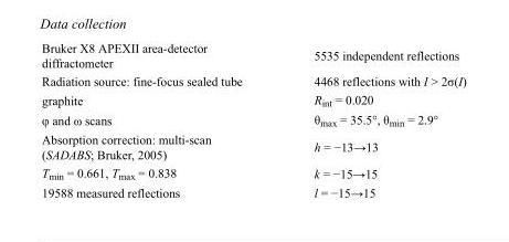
<table><tbody><tr><td>Bruker X8 APEXII area-detector diffractometer</td><td>5535 independent reflections</td></tr><tr><td>Radiation source: fine-focus sealed tube</td><td>4468 reflections with I &gt; 2σ(I)</td></tr><tr><td>graphite</td><td>R<sub>int</sub> = 0.020</td></tr><tr><td>φ and ω scans</td><td>θ<sub>max</sub> = 35.5°, θ<sub>min</sub> = 2.9°</td></tr><tr><td>Absorption correction: multi-scan (SADABS; Bruker, 2005)</td><td>h = −13→13</td></tr><tr><td>T<sub>min</sub> = 0.661, T<sub>max</sub> = 0.838</td><td>k = −15→15</td></tr><tr><td>19588 measured reflections</td><td>l = −15→15</td></tr></tbody></table>